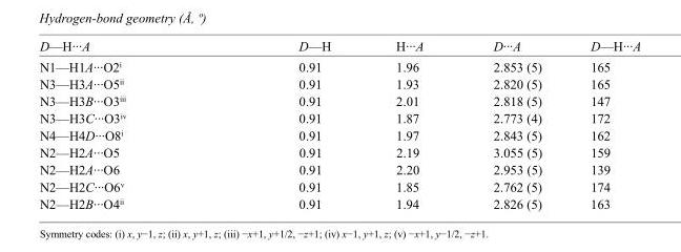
<table><tbody><tr><td>D—H···A</td><td>D—H</td><td>H···A</td><td>D···A</td><td>D—H···A</td></tr><tr><td>N1—H1A···O2<sup>i</sup></td><td>0.91</td><td>1.96</td><td>2.853 (5)</td><td>165</td></tr><tr><td>N3—H3A···O5<sup>ii</sup></td><td>0.91</td><td>1.93</td><td>2.820 (5)</td><td>165</td></tr><tr><td>N3—H3B···O3<sup>iii</sup></td><td>0.91</td><td>2.01</td><td>2.818 (5)</td><td>147</td></tr><tr><td>N3—H3C···O3<sup>iv</sup></td><td>0.91</td><td>1.87</td><td>2.773 (4)</td><td>172</td></tr><tr><td>N4—H4D···O8<sup>i</sup></td><td>0.91</td><td>1.97</td><td>2.843 (5)</td><td>162</td></tr><tr><td>N2—H2A···O5</td><td>0.91</td><td>2.19</td><td>3.055 (5)</td><td>159</td></tr><tr><td>N2—H2A···O6</td><td>0.91</td><td>2.20</td><td>2.953 (5)</td><td>139</td></tr><tr><td>N2—H2C···O6<sup>v</sup></td><td>0.91</td><td>1.85</td><td>2.762 (5)</td><td>174</td></tr><tr><td>N2—H2B···O4<sup>ii</sup></td><td>0.91</td><td>1.94</td><td>2.826 (5)</td><td>163</td></tr></tbody></table>